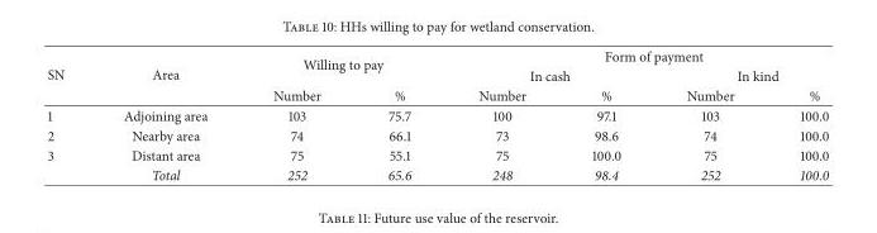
<table><thead><tr><td rowspan="3">SN</td><td rowspan="3">Area</td><td rowspan="2" colspan="2">Willing to pay</td><td colspan="4">Form of payment</td></tr><tr><td colspan="2">In cash</td><td colspan="2">In kind</td></tr><tr><td>Number</td><td>%</td><td>Number</td><td>%</td><td>Number</td><td>%</td></tr></thead><tbody><tr><td>1</td><td>Adjoining area</td><td>103</td><td>75.7</td><td>100</td><td>97.1</td><td>103</td><td>100.0</td></tr><tr><td>2</td><td>Nearby area</td><td>74</td><td>66.1</td><td>73</td><td>98.6</td><td>74</td><td>100.0</td></tr><tr><td rowspan="2">3</td><td>Distant area</td><td>75</td><td>55.1</td><td>75</td><td>100.0</td><td>75</td><td>100.0</td></tr><tr><td>Total</td><td>252</td><td>65.6</td><td>248</td><td>98.4</td><td>252</td><td>100.0</td></tr></tbody></table>